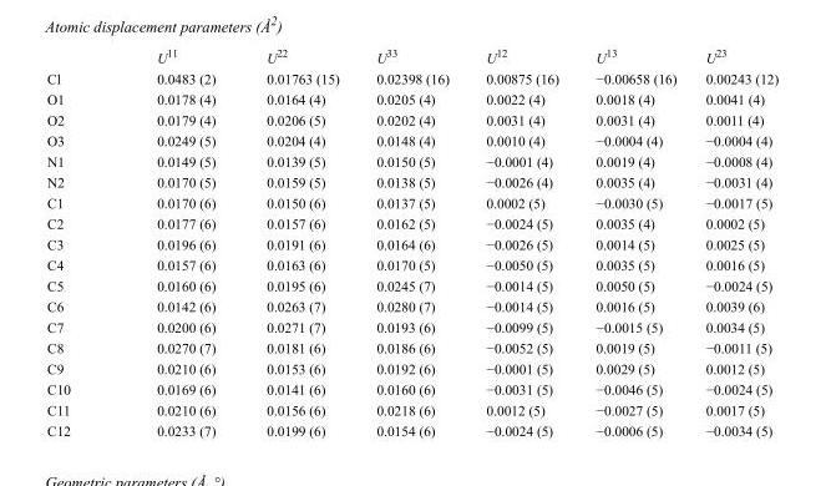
<table><thead><tr><td></td><td>U<sup>11</sup></td><td>U<sup>22</sup></td><td>U<sup>33</sup></td><td>U<sup>12</sup></td><td>U<sup>13</sup></td><td>U<sup>23</sup></td></tr></thead><tbody><tr><td>Cl</td><td>0.0483 (2)</td><td>0.01763 (15)</td><td>0.02398 (16)</td><td>0.00875 (16)</td><td>−0.00658 (16)</td><td>0.00243 (12)</td></tr><tr><td>O1</td><td>0.0178 (4)</td><td>0.0164 (4)</td><td>0.0205 (4)</td><td>0.0022 (4)</td><td>0.0018 (4)</td><td>0.0041 (4)</td></tr><tr><td>O2</td><td>0.0179 (4)</td><td>0.0206 (5)</td><td>0.0202 (4)</td><td>0.0031 (4)</td><td>0.0031 (4)</td><td>0.0011 (4)</td></tr><tr><td>O3</td><td>0.0249 (5)</td><td>0.0204 (4)</td><td>0.0148 (4)</td><td>0.0010 (4)</td><td>−0.0004 (4)</td><td>−0.0004 (4)</td></tr><tr><td>N1</td><td>0.0149 (5)</td><td>0.0139 (5)</td><td>0.0150 (5)</td><td>−0.0001 (4)</td><td>0.0019 (4)</td><td>−0.0008 (4)</td></tr><tr><td>N2</td><td>0.0170 (5)</td><td>0.0159 (5)</td><td>0.0138 (5)</td><td>−0.0026 (4)</td><td>0.0035 (4)</td><td>−0.0031 (4)</td></tr><tr><td>C1</td><td>0.0170 (6)</td><td>0.0150 (6)</td><td>0.0137 (5)</td><td>0.0002 (5)</td><td>−0.0030 (5)</td><td>−0.0017 (5)</td></tr><tr><td>C2</td><td>0.0177 (6)</td><td>0.0157 (6)</td><td>0.0162 (5)</td><td>−0.0024 (5)</td><td>0.0035 (4)</td><td>0.0002 (5)</td></tr><tr><td>C3</td><td>0.0196 (6)</td><td>0.0191 (6)</td><td>0.0164 (6)</td><td>−0.0026 (5)</td><td>0.0014 (5)</td><td>0.0025 (5)</td></tr><tr><td>C4</td><td>0.0157 (6)</td><td>0.0163 (6)</td><td>0.0170 (5)</td><td>−0.0050 (5)</td><td>0.0035 (5)</td><td>0.0016 (5)</td></tr><tr><td>C5</td><td>0.0160 (6)</td><td>0.0195 (6)</td><td>0.0245 (7)</td><td>−0.0014 (5)</td><td>0.0050 (5)</td><td>−0.0024 (5)</td></tr><tr><td>C6</td><td>0.0142 (6)</td><td>0.0263 (7)</td><td>0.0280 (7)</td><td>−0.0014 (5)</td><td>0.0016 (5)</td><td>0.0039 (6)</td></tr><tr><td>C7</td><td>0.0200 (6)</td><td>0.0271 (7)</td><td>0.0193 (6)</td><td>−0.0099 (5)</td><td>−0.0015 (5)</td><td>0.0034 (5)</td></tr><tr><td>C8</td><td>0.0270 (7)</td><td>0.0181 (6)</td><td>0.0186 (6)</td><td>−0.0052 (5)</td><td>0.0019 (5)</td><td>−0.0011 (5)</td></tr><tr><td>C9</td><td>0.0210 (6)</td><td>0.0153 (6)</td><td>0.0192 (6)</td><td>−0.0001 (5)</td><td>0.0029 (5)</td><td>0.0012 (5)</td></tr><tr><td>C10</td><td>0.0169 (6)</td><td>0.0141 (6)</td><td>0.0160 (6)</td><td>−0.0031 (5)</td><td>−0.0046 (5)</td><td>−0.0024 (5)</td></tr><tr><td>C11</td><td>0.0210 (6)</td><td>0.0156 (6)</td><td>0.0218 (6)</td><td>0.0012 (5)</td><td>−0.0027 (5)</td><td>0.0017 (5)</td></tr><tr><td>C12</td><td>0.0233 (7)</td><td>0.0199 (6)</td><td>0.0154 (6)</td><td>−0.0024 (5)</td><td>−0.0006 (5)</td><td>−0.0034 (5)</td></tr></tbody></table>